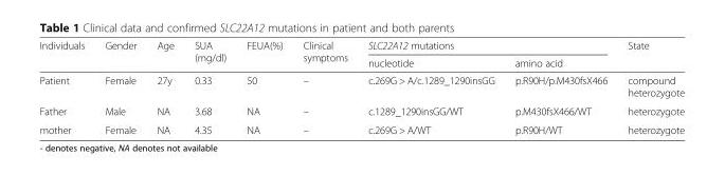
<table><thead><tr><td rowspan="2">Individuals</td><td rowspan="2">Gender</td><td rowspan="2">Age</td><td rowspan="2">SUA (mg/dl)</td><td rowspan="2">FEUA(%)</td><td rowspan="2">Clinical symptoms</td><td colspan="2">SLC22A12 mutations</td><td rowspan="2">State</td></tr><tr><td>nucleotide</td><td>amino acid</td></tr></thead><tbody><tr><td>Patient</td><td>Female</td><td>27y</td><td>0.33</td><td>50</td><td>–</td><td>c.269G &gt; A/c.1289_1290insGG</td><td>p.R90H/p.M430fsX466</td><td>compound heterozygote</td></tr><tr><td>Father</td><td>Male</td><td>NA</td><td>3.68</td><td>NA</td><td>–</td><td>c.1289_1290insGG/WT</td><td>p.M430fsX466/WT</td><td>heterozygote</td></tr><tr><td>mother</td><td>Female</td><td>NA</td><td>4.35</td><td>NA</td><td>–</td><td>c.269G &gt; A/WT</td><td>p.R90H/WT</td><td>heterozygote</td></tr></tbody></table>